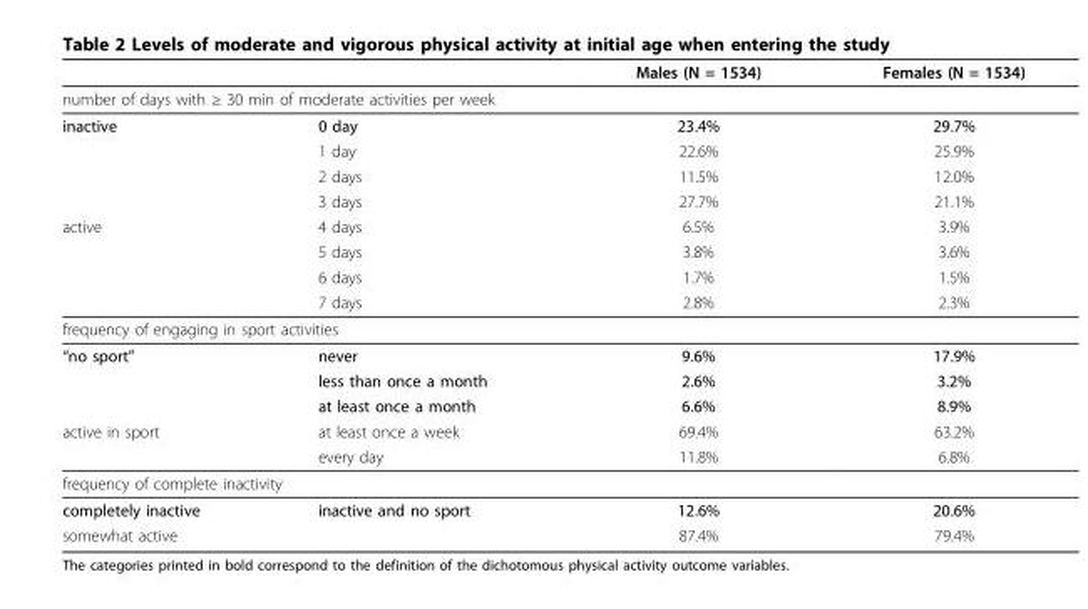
<table><thead><tr><td></td><td></td><td>Males (N = 1534)</td><td>Females (N = 1534)</td></tr></thead><tbody><tr><td colspan="4">number of days with ≥ 30 min of moderate activities per week</td></tr><tr><td rowspan="4">inactive</td><td>0 day</td><td>23.4%</td><td>29.7%</td></tr><tr><td>1 day</td><td>22.6%</td><td>25.9%</td></tr><tr><td>2 days</td><td>11.5%</td><td>12.0%</td></tr><tr><td>3 days</td><td>27.7%</td><td>21.1%</td></tr><tr><td rowspan="4">active</td><td>4 days</td><td>6.5%</td><td>3.9%</td></tr><tr><td>5 days</td><td>3.8%</td><td>3.6%</td></tr><tr><td>6 days</td><td>1.7%</td><td>1.5%</td></tr><tr><td>7 days</td><td>2.8%</td><td>2.3%</td></tr><tr><td colspan="4">frequency of engaging in sport activities</td></tr><tr><td rowspan="3">“no sport”</td><td>never</td><td>9.6%</td><td>17.9%</td></tr><tr><td>less than once a month</td><td>2.6%</td><td>3.2%</td></tr><tr><td>at least once a month</td><td>6.6%</td><td>8.9%</td></tr><tr><td rowspan="2">active in sport</td><td>at least once a week</td><td>69.4%</td><td>63.2%</td></tr><tr><td>every day</td><td>11.8%</td><td>6.8%</td></tr><tr><td colspan="4">frequency of complete inactivity</td></tr><tr><td>completely inactive</td><td>inactive and no sport</td><td>12.6%</td><td>20.6%</td></tr><tr><td>somewhat active</td><td></td><td>87.4%</td><td>79.4%</td></tr></tbody></table>